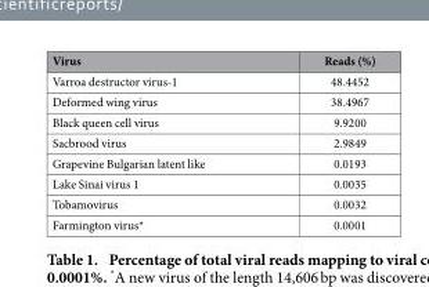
<table><thead><tr><td>Virus</td><td>Reads (%)</td></tr></thead><tbody><tr><td>Varroa destructor virus-1</td><td>48.4452</td></tr><tr><td>Deformed wing virus</td><td>38.4967</td></tr><tr><td>Black queen cell virus</td><td>9.9200</td></tr><tr><td>Sacbrood virus</td><td>2.9849</td></tr><tr><td>Grapevine Bulgarian latent like</td><td>0.0193</td></tr><tr><td>Lake Sinai virus 1</td><td>0.0035</td></tr><tr><td>Tobamovirus</td><td>0.0032</td></tr><tr><td>Farmington virus*</td><td>0.0001</td></tr></tbody></table>